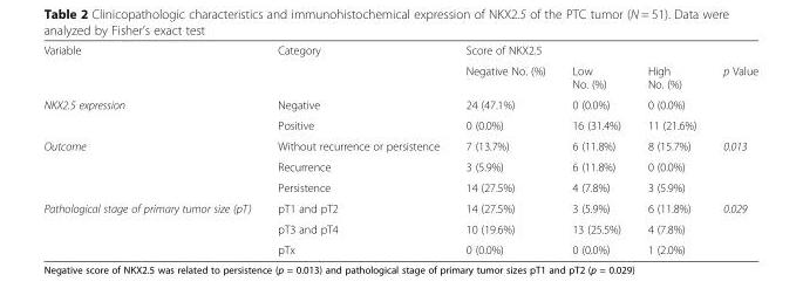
<table><tbody><tr><td rowspan="2">Variable</td><td rowspan="2">Category</td><td colspan="4">Score of NKX2.5</td></tr><tr><td>Negative No. (%)</td><td>Low No. (%)</td><td>High No. (%)</td><td>p Value</td></tr><tr><td rowspan="2">NKX2.5 expression</td><td>Negative</td><td>24 (47.1%)</td><td>0 (0.0%)</td><td>0 (0.0%)</td><td rowspan="2"></td></tr><tr><td>Positive</td><td>0 (0.0%)</td><td>16 (31.4%)</td><td>11 (21.6%)</td></tr><tr><td rowspan="3">Outcome</td><td>Without recurrence or persistence</td><td>7 (13.7%)</td><td>6 (11.8%)</td><td>8 (15.7%)</td><td rowspan="3">0.013</td></tr><tr><td>Recurrence</td><td>3 (5.9%)</td><td>6 (11.8%)</td><td>0 (0.0%)</td></tr><tr><td>Persistence</td><td>14 (27.5%)</td><td>4 (7.8%)</td><td>3 (5.9%)</td></tr><tr><td rowspan="3">Pathological stage of primary tumor size (pT)</td><td>pT1 and pT2</td><td>14 (27.5%)</td><td>3 (5.9%)</td><td>6 (11.8%)</td><td rowspan="3">0.029</td></tr><tr><td>pT3 and pT4</td><td>10 (19.6%)</td><td>13 (25.5%)</td><td>4 (7.8%)</td></tr><tr><td>pTx</td><td>0 (0.0%)</td><td>0 (0.0%)</td><td>1 (2.0%)</td></tr></tbody></table>